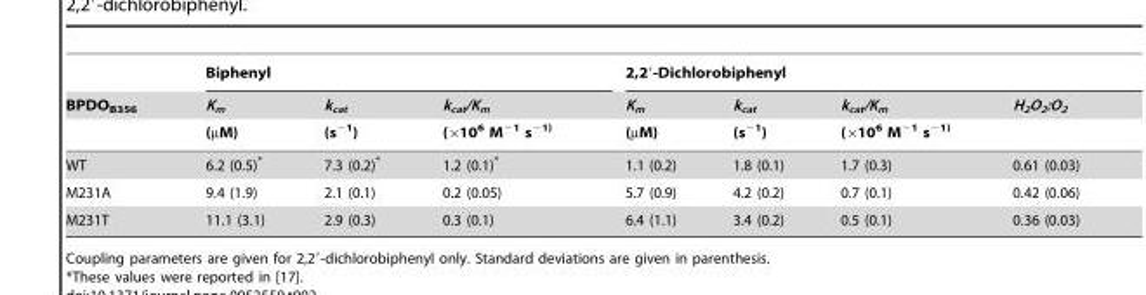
<table><thead><tr><td rowspan="3">BPDO<sub>B356</sub></td><td colspan="3">Biphenyl</td><td colspan="4">2,2′-Dichlorobiphenyl</td></tr><tr><td rowspan="2">K<sub>m</sub> (µM)</td><td rowspan="2">k<sub>cat</sub> (s<sup>−1</sup>)</td><td rowspan="2">k<sub>cat</sub>/K<sub>m</sub> (×10<sup>6</sup> M<sup>−1</sup> s<sup>−1)</sup></td><td rowspan="2">K<sub>m</sub> (µM)</td><td rowspan="2">k<sub>cat</sub> (s<sup>−1</sup>)</td><td rowspan="2">k<sub>cat</sub>/K<sub>m</sub> (×10<sup>6</sup> M<sup>−1</sup> s<sup>−1)</sup></td><td rowspan="2">H2O2:O2</td></tr><tr></tr></thead><tbody><tr><td>WT</td><td>6.2 (0.5)*</td><td>7.3 (0.2)*</td><td>1.2 (0.1)*</td><td>1.1 (0.2)</td><td>1.8 (0.1)</td><td>1.7 (0.3)</td><td>0.61 (0.03)</td></tr><tr><td>M231A</td><td>9.4 (1.9)</td><td>2.1 (0.1)</td><td>0.2 (0.05)</td><td>5.7 (0.9)</td><td>4.2 (0.2)</td><td>0.7 (0.1)</td><td>0.42 (0.06)</td></tr><tr><td>M231T</td><td>11.1 (3.1)</td><td>2.9 (0.3)</td><td>0.3 (0.1)</td><td>6.4 (1.1)</td><td>3.4 (0.2)</td><td>0.5 (0.1)</td><td>0.36 (0.03)</td></tr></tbody></table>